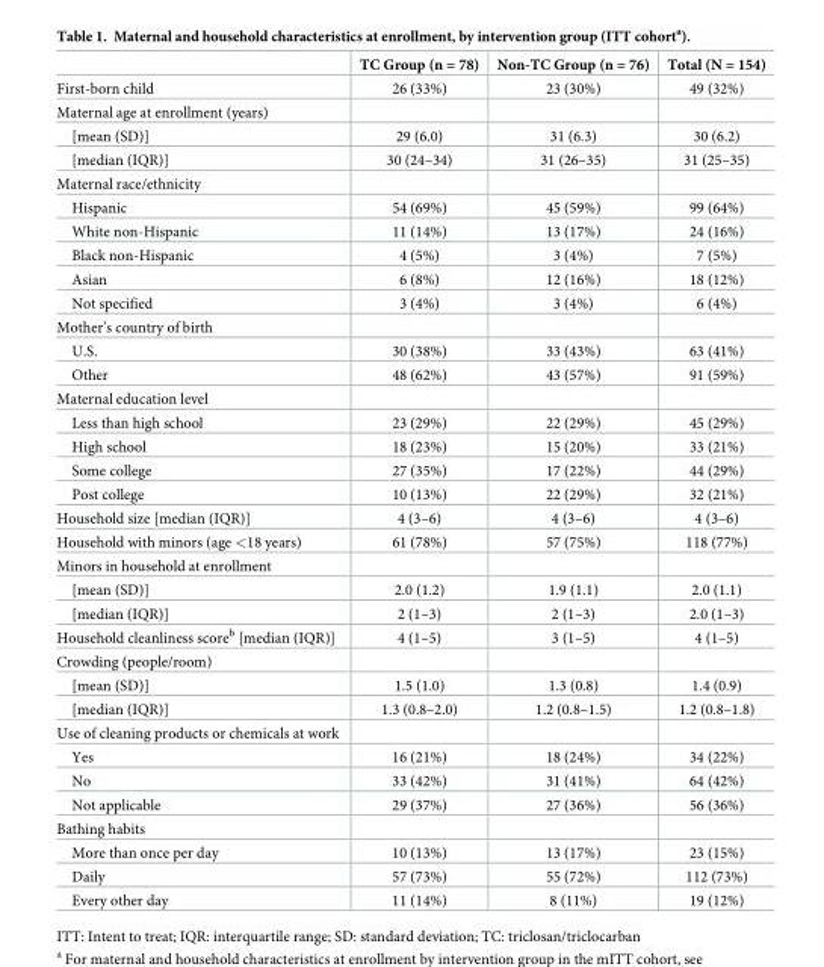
<table><thead><tr><td></td><td>TC Group (n = 78)</td><td>Non-TC Group (n = 76)</td><td>Total (N = 154)</td></tr></thead><tbody><tr><td>First-born child</td><td>26 (33%)</td><td>23 (30%)</td><td>49 (32%)</td></tr><tr><td colspan="4">Maternal age at enrollment (years)</td></tr><tr><td>[mean (SD)]</td><td>29 (6.0)</td><td>31 (6.3)</td><td>30 (6.2)</td></tr><tr><td>[median (IQR)]</td><td>30 (24–34)</td><td>31 (26–35)</td><td>31 (25–35)</td></tr><tr><td colspan="4">Maternal race/ethnicity</td></tr><tr><td>Hispanic</td><td>54 (69%)</td><td>45 (59%)</td><td>99 (64%)</td></tr><tr><td>White non-Hispanic</td><td>11 (14%)</td><td>13 (17%)</td><td>24 (16%)</td></tr><tr><td>Black non-Hispanic</td><td>4 (5%)</td><td>3 (4%)</td><td>7 (5%)</td></tr><tr><td>Asian</td><td>6 (8%)</td><td>12 (16%)</td><td>18 (12%)</td></tr><tr><td>Not specified</td><td>3 (4%)</td><td>3 (4%)</td><td>6 (4%)</td></tr><tr><td colspan="4">Mother’s country of birth</td></tr><tr><td>U.S.</td><td>30 (38%)</td><td>33 (43%)</td><td>63 (41%)</td></tr><tr><td>Other</td><td>48 (62%)</td><td>43 (57%)</td><td>91 (59%)</td></tr><tr><td colspan="4">Maternal education level</td></tr><tr><td>Less than high school</td><td>23 (29%)</td><td>22 (29%)</td><td>45 (29%)</td></tr><tr><td>High school</td><td>18 (23%)</td><td>15 (20%)</td><td>33 (21%)</td></tr><tr><td>Some college</td><td>27 (35%)</td><td>17 (22%)</td><td>44 (29%)</td></tr><tr><td>Post college</td><td>10 (13%)</td><td>22 (29%)</td><td>32 (21%)</td></tr><tr><td>Household size [median (IQR)]</td><td>4 (3–6)</td><td>4 (3–6)</td><td>4 (3–6)</td></tr><tr><td>Household with minors (age &lt;18 years)</td><td>61 (78%)</td><td>57 (75%)</td><td>118 (77%)</td></tr><tr><td colspan="4">Minors in household at enrollment</td></tr><tr><td>[mean (SD)]</td><td>2.0 (1.2)</td><td>1.9 (1.1)</td><td>2.0 (1.1)</td></tr><tr><td>[median (IQR)]</td><td>2 (1–3)</td><td>2 (1–3)</td><td>2.0 (1–3)</td></tr><tr><td>Household cleanliness score<sup>b</sup> [median (IQR)]</td><td>4 (1–5)</td><td>3 (1–5)</td><td>4 (1–5)</td></tr><tr><td colspan="4">Crowding (people/room)</td></tr><tr><td>[mean (SD)]</td><td>1.5 (1.0)</td><td>1.3 (0.8)</td><td>1.4 (0.9)</td></tr><tr><td>[median (IQR)]</td><td>1.3 (0.8–2.0)</td><td>1.2 (0.8–1.5)</td><td>1.2 (0.8–1.8)</td></tr><tr><td colspan="4">Use of cleaning products or chemicals at work</td></tr><tr><td>Yes</td><td>16 (21%)</td><td>18 (24%)</td><td>34 (22%)</td></tr><tr><td>No</td><td>33 (42%)</td><td>31 (41%)</td><td>64 (42%)</td></tr><tr><td>Not applicable</td><td>29 (37%)</td><td>27 (36%)</td><td>56 (36%)</td></tr><tr><td colspan="4">Bathing habits</td></tr><tr><td>More than once per day</td><td>10 (13%)</td><td>13 (17%)</td><td>23 (15%)</td></tr><tr><td>Daily</td><td>57 (73%)</td><td>55 (72%)</td><td>112 (73%)</td></tr><tr><td>Every other day</td><td>11 (14%)</td><td>8 (11%)</td><td>19 (12%)</td></tr></tbody></table>